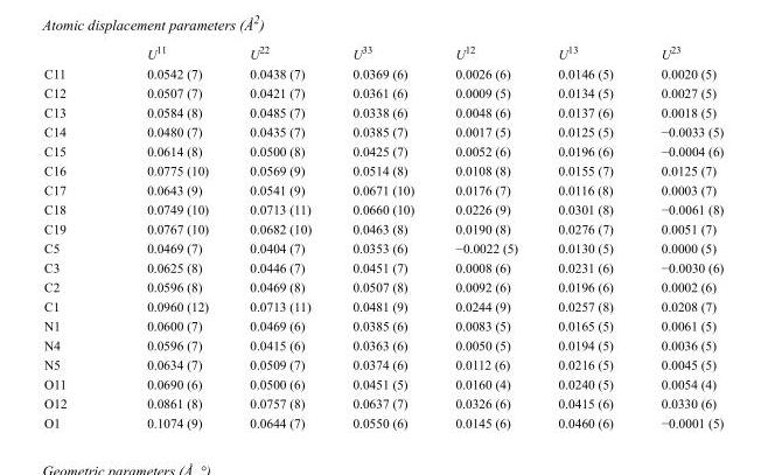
<table><thead><tr><td></td><td>U<sup>11</sup></td><td>U<sup>22</sup></td><td>U<sup>33</sup></td><td>U<sup>12</sup></td><td>U<sup>13</sup></td><td>U<sup>23</sup></td></tr></thead><tbody><tr><td>C11</td><td>0.0542 (7)</td><td>0.0438 (7)</td><td>0.0369 (6)</td><td>0.0026 (6)</td><td>0.0146 (5)</td><td>0.0020 (5)</td></tr><tr><td>C12</td><td>0.0507 (7)</td><td>0.0421 (7)</td><td>0.0361 (6)</td><td>0.0009 (5)</td><td>0.0134 (5)</td><td>0.0027 (5)</td></tr><tr><td>C13</td><td>0.0584 (8)</td><td>0.0485 (7)</td><td>0.0338 (6)</td><td>0.0048 (6)</td><td>0.0137 (6)</td><td>0.0018 (5)</td></tr><tr><td>C14</td><td>0.0480 (7)</td><td>0.0435 (7)</td><td>0.0385 (7)</td><td>0.0017 (5)</td><td>0.0125 (5)</td><td>−0.0033 (5)</td></tr><tr><td>C15</td><td>0.0614 (8)</td><td>0.0500 (8)</td><td>0.0425 (7)</td><td>0.0052 (6)</td><td>0.0196 (6)</td><td>−0.0004 (6)</td></tr><tr><td>C16</td><td>0.0775 (10)</td><td>0.0569 (9)</td><td>0.0514 (8)</td><td>0.0108 (8)</td><td>0.0155 (7)</td><td>0.0125 (7)</td></tr><tr><td>C17</td><td>0.0643 (9)</td><td>0.0541 (9)</td><td>0.0671 (10)</td><td>0.0176 (7)</td><td>0.0116 (8)</td><td>0.0003 (7)</td></tr><tr><td>C18</td><td>0.0749 (10)</td><td>0.0713 (11)</td><td>0.0660 (10)</td><td>0.0226 (9)</td><td>0.0301 (8)</td><td>−0.0061 (8)</td></tr><tr><td>C19</td><td>0.0767 (10)</td><td>0.0682 (10)</td><td>0.0463 (8)</td><td>0.0190 (8)</td><td>0.0276 (7)</td><td>0.0051 (7)</td></tr><tr><td>C5</td><td>0.0469 (7)</td><td>0.0404 (7)</td><td>0.0353 (6)</td><td>−0.0022 (5)</td><td>0.0130 (5)</td><td>0.0000 (5)</td></tr><tr><td>C3</td><td>0.0625 (8)</td><td>0.0446 (7)</td><td>0.0451 (7)</td><td>0.0008 (6)</td><td>0.0231 (6)</td><td>−0.0030 (6)</td></tr><tr><td>C2</td><td>0.0596 (8)</td><td>0.0469 (8)</td><td>0.0507 (8)</td><td>0.0092 (6)</td><td>0.0196 (6)</td><td>0.0002 (6)</td></tr><tr><td>C1</td><td>0.0960 (12)</td><td>0.0713 (11)</td><td>0.0481 (9)</td><td>0.0244 (9)</td><td>0.0257 (8)</td><td>0.0208 (7)</td></tr><tr><td>N1</td><td>0.0600 (7)</td><td>0.0469 (6)</td><td>0.0385 (6)</td><td>0.0083 (5)</td><td>0.0165 (5)</td><td>0.0061 (5)</td></tr><tr><td>N4</td><td>0.0596 (7)</td><td>0.0415 (6)</td><td>0.0363 (6)</td><td>0.0050 (5)</td><td>0.0194 (5)</td><td>0.0036 (5)</td></tr><tr><td>N5</td><td>0.0634 (7)</td><td>0.0509 (7)</td><td>0.0374 (6)</td><td>0.0112 (6)</td><td>0.0216 (5)</td><td>0.0045 (5)</td></tr><tr><td>O11</td><td>0.0690 (6)</td><td>0.0500 (6)</td><td>0.0451 (5)</td><td>0.0160 (4)</td><td>0.0240 (5)</td><td>0.0054 (4)</td></tr><tr><td>O12</td><td>0.0861 (8)</td><td>0.0757 (8)</td><td>0.0637 (7)</td><td>0.0326 (6)</td><td>0.0415 (6)</td><td>0.0330 (6)</td></tr><tr><td>O1</td><td>0.1074 (9)</td><td>0.0644 (7)</td><td>0.0550 (6)</td><td>0.0145 (6)</td><td>0.0460 (6)</td><td>−0.0001 (5)</td></tr></tbody></table>